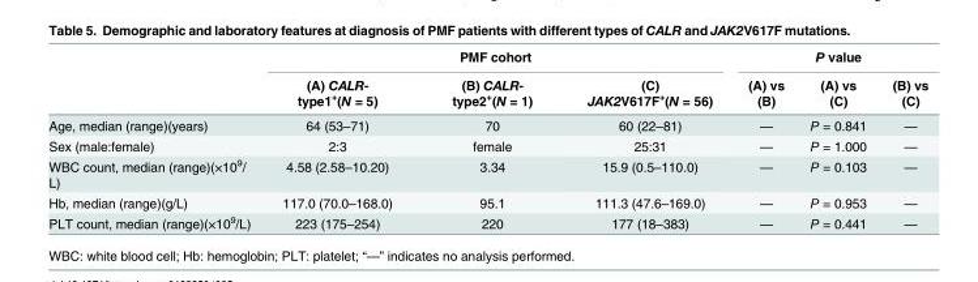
<table><thead><tr><td rowspan="2"></td><td colspan="3">PMF cohort</td><td colspan="3">P value</td></tr><tr><td>(A) CALR- type1<sup>+</sup>(N = 5)</td><td>(B) CALR- type2<sup>+</sup>(N = 1)</td><td>(C) JAK2V617F<sup>+</sup>(N = 56)</td><td>(A) vs (B)</td><td>(A) vs (C)</td><td>(B) vs (C)</td></tr></thead><tbody><tr><td>Age, median (range)(years)</td><td>64 (53–71)</td><td>70</td><td>60 (22–81)</td><td>—</td><td>P = 0.841</td><td>—</td></tr><tr><td>Sex (male:female)</td><td>2:3</td><td>female</td><td>25:31</td><td>—</td><td>P = 1.000</td><td>—</td></tr><tr><td>WBC count, median (range)(×10<sup>9</sup>/ L)</td><td>4.58 (2.58–10.20)</td><td>3.34</td><td>15.9 (0.5–110.0)</td><td>—</td><td>P = 0.103</td><td>—</td></tr><tr><td>Hb, median (range)(g/L)</td><td>117.0 (70.0–168.0)</td><td>95.1</td><td>111.3 (47.6–169.0)</td><td>—</td><td>P = 0.953</td><td>—</td></tr><tr><td>PLT count, median (range)(×10<sup>9</sup>/L)</td><td>223 (175–254)</td><td>220</td><td>177 (18–383)</td><td>—</td><td>P = 0.441</td><td>—</td></tr></tbody></table>